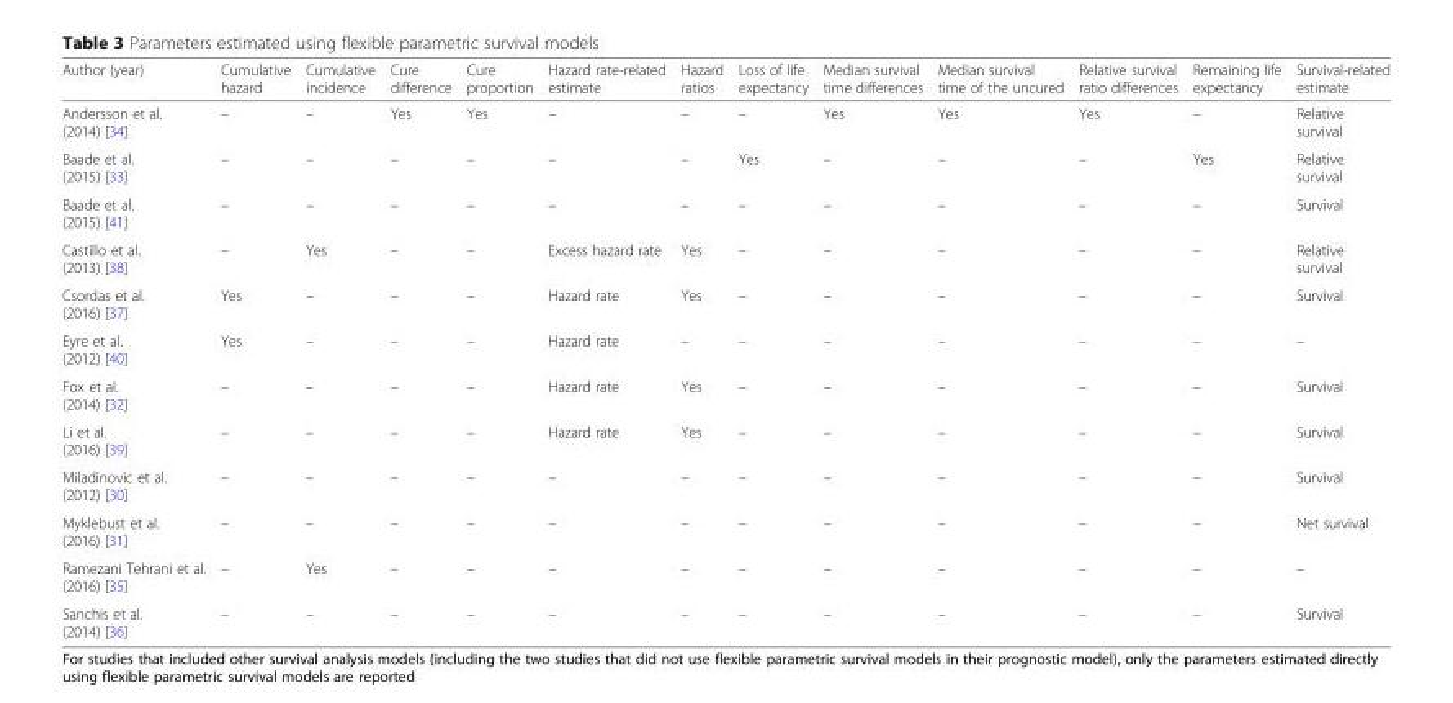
<table><thead><tr><td>Author (year)</td><td>Cumulative hazard</td><td>Cumulative incidence</td><td>Cure difference</td><td>Cure proportion</td><td>Hazard rate-related estimate</td><td>Hazard ratios</td><td>Loss of life expectancy</td><td>Median survival time differences</td><td>Median survival time of the uncured</td><td>Relative survival ratio differences</td><td>Remaining life expectancy</td><td>Survival-related estimate</td></tr></thead><tbody><tr><td>Andersson et al. (2014) [34]</td><td>–</td><td>–</td><td>Yes</td><td>Yes</td><td>–</td><td>–</td><td>–</td><td>Yes</td><td>Yes</td><td>Yes</td><td>–</td><td>Relative survival</td></tr><tr><td>Baade et al. (2015) [33]</td><td>–</td><td>–</td><td>–</td><td>–</td><td>–</td><td>–</td><td>Yes</td><td>–</td><td>–</td><td>–</td><td>Yes</td><td>Relative survival</td></tr><tr><td>Baade et al. (2015) [41]</td><td>–</td><td>–</td><td>–</td><td>–</td><td>–</td><td>–</td><td>–</td><td>–</td><td>–</td><td>–</td><td>–</td><td>Survival</td></tr><tr><td>Castillo et al. (2013) [38]</td><td>–</td><td>Yes</td><td>–</td><td>–</td><td>Excess hazard rate</td><td>Yes</td><td>–</td><td>–</td><td>–</td><td>–</td><td>–</td><td>Relative survival</td></tr><tr><td>Csordas et al. (2016) [37]</td><td>Yes</td><td>–</td><td>–</td><td>–</td><td>Hazard rate</td><td>Yes</td><td>–</td><td>–</td><td>–</td><td>–</td><td>–</td><td>Survival</td></tr><tr><td>Eyre et al. (2012) [40]</td><td>Yes</td><td>–</td><td>–</td><td>–</td><td>Hazard rate</td><td>–</td><td>–</td><td>–</td><td>–</td><td>–</td><td>–</td><td>–</td></tr><tr><td>Fox et al. (2014) [32]</td><td>–</td><td>–</td><td>–</td><td>–</td><td>Hazard rate</td><td>Yes</td><td>–</td><td>–</td><td>–</td><td>–</td><td>–</td><td>Survival</td></tr><tr><td>Li et al. (2016) [39]</td><td>–</td><td>–</td><td>–</td><td>–</td><td>Hazard rate</td><td>Yes</td><td>–</td><td>–</td><td>–</td><td>–</td><td>–</td><td>Survival</td></tr><tr><td>Miladinovic et al. (2012) [30]</td><td>–</td><td>–</td><td>–</td><td>–</td><td>–</td><td>–</td><td>–</td><td>–</td><td>–</td><td>–</td><td>–</td><td>Survival</td></tr><tr><td>Myklebust et al. (2016) [31]</td><td>–</td><td>–</td><td>–</td><td>–</td><td>–</td><td>–</td><td>–</td><td>–</td><td>–</td><td>–</td><td>–</td><td>Net survival</td></tr><tr><td>Ramezani Tehrani et al. (2016) [35]</td><td>–</td><td>Yes</td><td>–</td><td>–</td><td>–</td><td>–</td><td>–</td><td>–</td><td>–</td><td>–</td><td>–</td><td>–</td></tr><tr><td>Sanchis et al. (2014) [36]</td><td>–</td><td>–</td><td>–</td><td>–</td><td>–</td><td>–</td><td>–</td><td>–</td><td>–</td><td>–</td><td>–</td><td>Survival</td></tr></tbody></table>